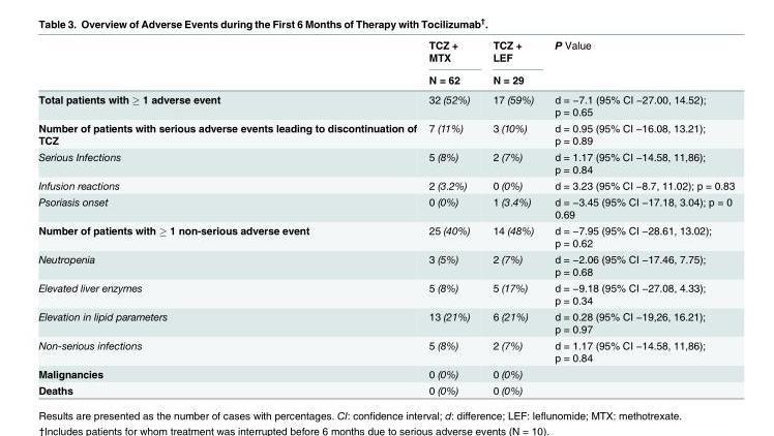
<table><thead><tr><td rowspan="2"></td><td rowspan="2">TCZ + MTX N = 62</td><td rowspan="2">TCZ + LEF N = 29</td><td rowspan="2">P Value</td></tr><tr></tr></thead><tbody><tr><td>Total patients with ≥ 1 adverse event</td><td>32 (52%)</td><td>17 (59%)</td><td>d = −7.1 (95% CI −27.00, 14.52); p = 0.65</td></tr><tr><td>Number of patients with serious adverse events leading to discontinuation of TCZ</td><td>7 (11%)</td><td>3 (10%)</td><td>d = 0.95 (95% CI −16.08, 13.21); p = 0.89</td></tr><tr><td>Serious Infections</td><td>5 (8%)</td><td>2 (7%)</td><td>d = 1.17 (95% CI −14.58, 11,86); p = 0.84</td></tr><tr><td>Infusion reactions</td><td>2 (3.2%)</td><td>0 (0%)</td><td>d = 3.23 (95% CI −8.7, 11.02); p = 0.83</td></tr><tr><td>Psoriasis onset</td><td>0 (0%)</td><td>1 (3.4%)</td><td>d = −3.45 (95% CI −17.18, 3.04); p = 0 0.69</td></tr><tr><td>Number of patients with ≥ 1 non-serious adverse event</td><td>25 (40%)</td><td>14 (48%)</td><td>d = −7.95 (95% CI −28.61, 13.02); p = 0.62</td></tr><tr><td>Neutropenia</td><td>3 (5%)</td><td>2 (7%)</td><td>d = −2.06 (95% CI −17.46, 7.75); p = 0.68</td></tr><tr><td>Elevated liver enzymes</td><td>5 (8%)</td><td>5 (17%)</td><td>d = −9.18 (95% CI −27.08, 4.33); p = 0.34</td></tr><tr><td>Elevation in lipid parameters</td><td>13 (21%)</td><td>6 (21%)</td><td>d = 0.28 (95% CI −19,26, 16.21); p = 0.97</td></tr><tr><td>Non-serious infections</td><td>5 (8%)</td><td>2 (7%)</td><td>d = 1.17 (95% CI −14.58, 11,86); p = 0.84</td></tr><tr><td>Malignancies</td><td>0 (0%)</td><td>0 (0%)</td><td></td></tr><tr><td>Deaths</td><td>0 (0%)</td><td>0 (0%)</td><td></td></tr></tbody></table>